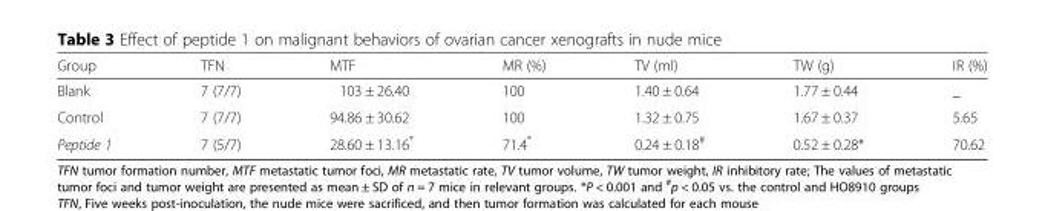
<table><thead><tr><td>Group</td><td>TFN</td><td>MTF</td><td>MR (%)</td><td>TV (ml)</td><td>TW (g)</td><td>IR (%)</td></tr></thead><tbody><tr><td>Blank</td><td>7 (7/7)</td><td>103 ± 26.40</td><td>100</td><td>1.40 ± 0.64</td><td>1.77 ± 0.44</td><td>_</td></tr><tr><td>Control</td><td>7 (7/7)</td><td>94.86 ± 30.62</td><td>100</td><td>1.32 ± 0.75</td><td>1.67 ± 0.37</td><td>5.65</td></tr><tr><td>Peptide 1</td><td>7 (5/7)</td><td>28.60 ± 13.16*</td><td>71.4*</td><td>0.24 ± 0.18<sup>#</sup></td><td>0.52 ± 0.28*</td><td>70.62</td></tr></tbody></table>